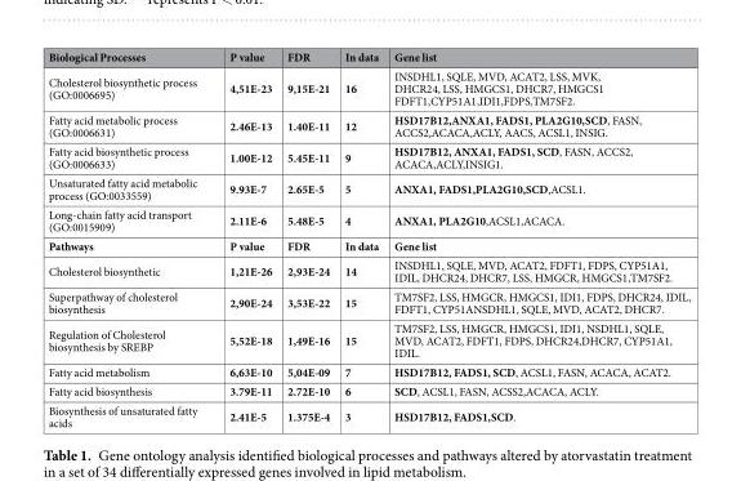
<table><thead><tr><td>Biological Processes</td><td>P value</td><td>FDR</td><td>In data</td><td>Gene list</td></tr></thead><tbody><tr><td>Cholesterol biosynthetic process (GO:0006695)</td><td>4,51E-23</td><td>9,15E-21</td><td>16</td><td>INSDHL1, SQLE, MVD, ACAT2, LSS, MVK, DHCR24, LSS, HMGCS1, DHCR7, HMGCS1 FDFT1,CYP51A1,IDI1,FDPS,TM7SF2.</td></tr><tr><td>Fatty acid metabolic process (GO:0006631)</td><td>2.46E-13</td><td>1.40E-11</td><td>12</td><td>HSD17B12,ANXA1, FADS1, PLA2G10,SCD, FASN, ACCS2,ACACA,ACLY, AACS, ACSL1, INSIG.</td></tr><tr><td>Fatty acid biosynthetic process (GO:0006633)</td><td>1.00E-12</td><td>5.45E-11</td><td>9</td><td>HSD17B12, ANXA1, FADS1, SCD, FASN, ACCS2, ACACA,ACLY,INSIG1.</td></tr><tr><td>Unsaturated fatty acid metabolic process (GO:0033559)</td><td>9.93E-7</td><td>2.65E-5</td><td>5</td><td>ANXA1, FADS1,PLA2G10,SCD,ACSL1.</td></tr><tr><td>Long-chain fatty acid transport (GO:0015909)</td><td>2.11E-6</td><td>5.48E-5</td><td>4</td><td>ANXA1, PLA2G10,ACSL1,ACACA.</td></tr><tr><td>Pathways</td><td>P value</td><td>FDR</td><td>In data</td><td>Gene list</td></tr><tr><td>Cholesterol biosynthetic</td><td>1,21E-26</td><td>2,93E-24</td><td>14</td><td>INSDHL1, SQLE, MVD, ACAT2, FDFT1, FDPS, CYP51A1, IDIL, DHCR24, DHCR7, LSS, HMGCR, HMGCS1,TM7SF2.</td></tr><tr><td>Superpathway of cholesterol biosynthesis</td><td>2,90E-24</td><td>3,53E-22</td><td>15</td><td>TM7SF2, LSS, HMGCR, HMGCS1, IDI1, FDPS, DHCR24, IDIL, FDFT1, CYP51ANSDHL1, SQLE, MVD, ACAT2, DHCR7.</td></tr><tr><td>Regulation of Cholesterol biosynthesis by SREBP</td><td>5,52E-18</td><td>1,49E-16</td><td>15</td><td>TM7SF2, LSS, HMGCR, HMGCS1, IDI1, NSDHL1, SQLE, MVD, ACAT2, FDFT1, FDPS, DHCR24,DHCR7, CYP51A1, IDIL.</td></tr><tr><td>Fatty acid metabolism</td><td>6,63E-10</td><td>5,04E-09</td><td>7</td><td>HSD17B12, FADS1, SCD, ACSL1, FASN, ACACA, ACAT2.</td></tr><tr><td>Fatty acid biosynthesis</td><td>3.79E-11</td><td>2.72E-10</td><td>6</td><td>SCD, ACSL1, FASN, ACSS2,ACACA, ACLY.</td></tr><tr><td>Biosynthesis of unsaturated fatty acids</td><td>2.41E-5</td><td>1.375E-4</td><td>3</td><td>HSD17B12, FADS1,SCD.</td></tr></tbody></table>